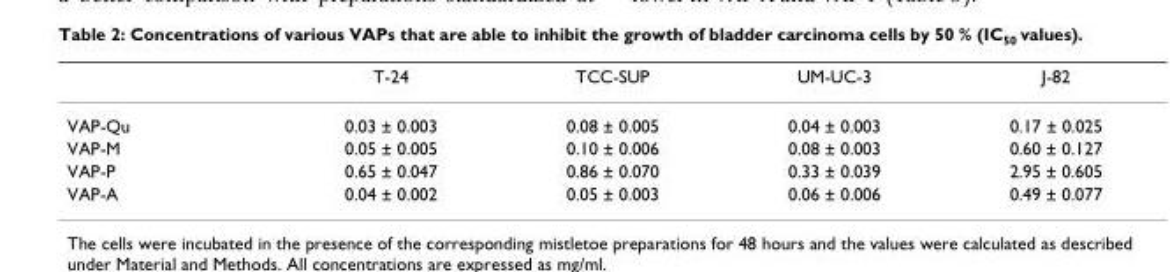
<table><thead><tr><td></td><td>T-24</td><td>TCC-SUP</td><td>UM-UC-3</td><td>J-82</td></tr></thead><tbody><tr><td>VAP-Qu</td><td>0.03 ± 0.003</td><td>0.08 ± 0.005</td><td>0.04 ± 0.003</td><td>0.17 ± 0.025</td></tr><tr><td>VAP-M</td><td>0.05 ± 0.005</td><td>0.10 ± 0.006</td><td>0.08 ± 0.003</td><td>0.60 ± 0.127</td></tr><tr><td>VAP-P</td><td>0.65 ± 0.047</td><td>0.86 ± 0.070</td><td>0.33 ± 0.039</td><td>2.95 ± 0.605</td></tr><tr><td>VAP-A</td><td>0.04 ± 0.002</td><td>0.05 ± 0.003</td><td>0.06 ± 0.006</td><td>0.49 ± 0.077</td></tr></tbody></table>